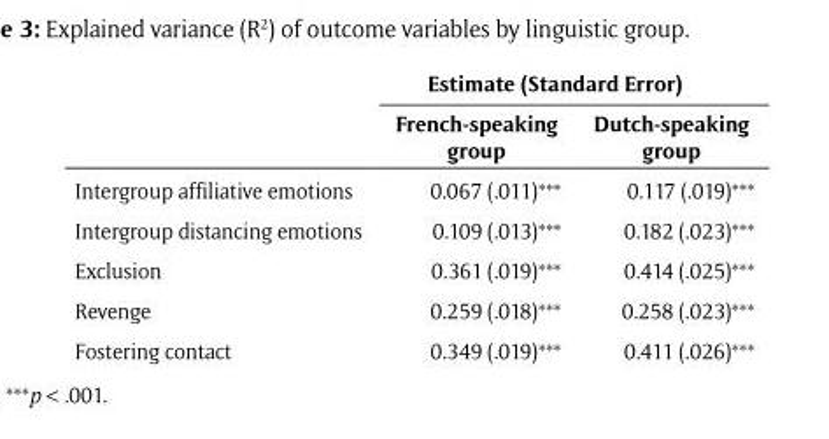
<table><thead><tr><td rowspan="2"></td><td colspan="2">Estimate (Standard Error)</td></tr><tr><td>French-speaking group</td><td>Dutch-speaking group</td></tr></thead><tbody><tr><td>Intergroup affiliative emotions</td><td>0.067 (.011)***</td><td>0.117 (.019)***</td></tr><tr><td>Intergroup distancing emotions</td><td>0.109 (.013)***</td><td>0.182 (.023)***</td></tr><tr><td>Exclusion</td><td>0.361 (.019)***</td><td>0.414 (.025)***</td></tr><tr><td>Revenge</td><td>0.259 (.018)***</td><td>0.258 (.023)***</td></tr><tr><td>Fostering contact</td><td>0.349 (.019)***</td><td>0.411 (.026)***</td></tr></tbody></table>